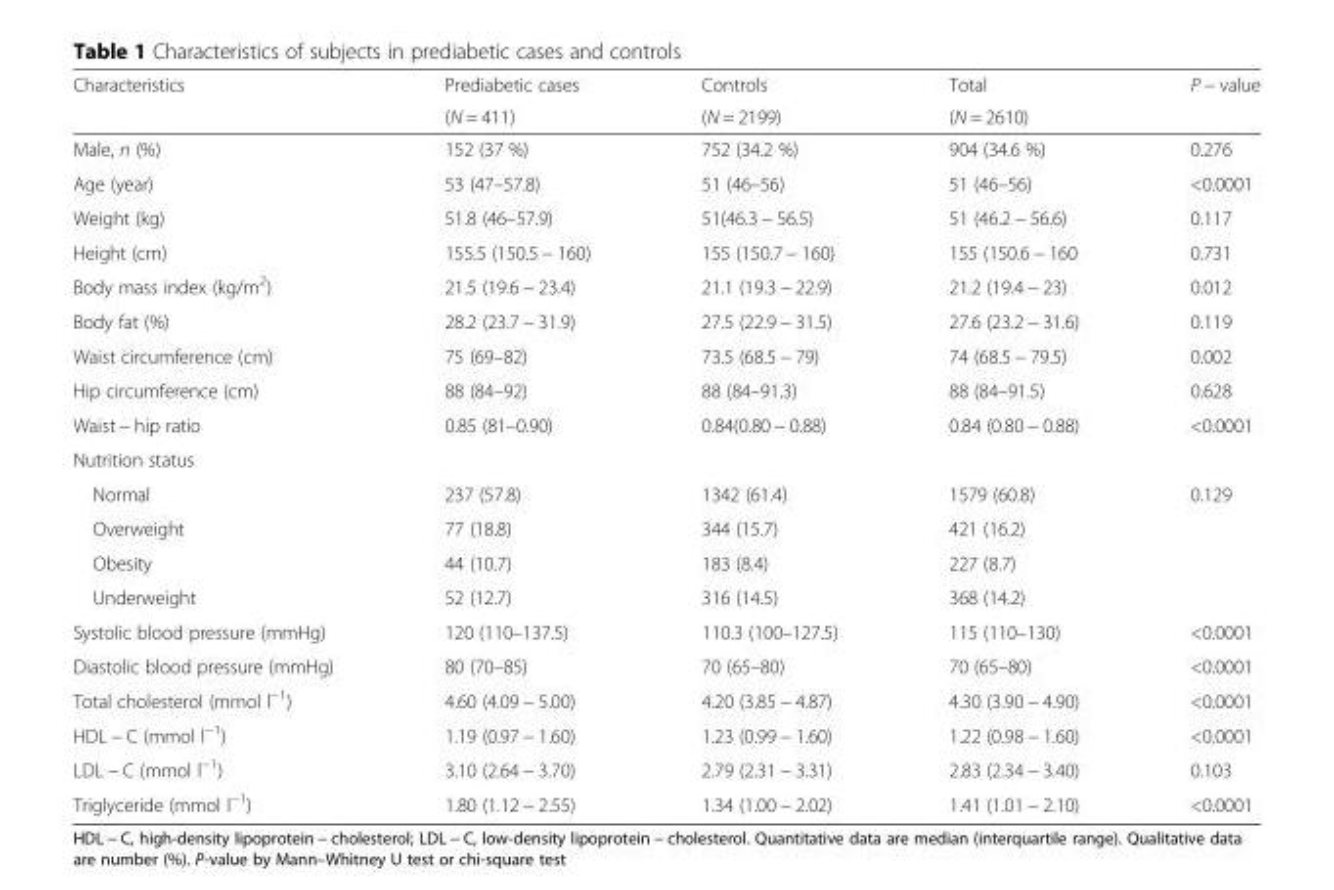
<table><thead><tr><td rowspan="2">Characteristics</td><td rowspan="2">Prediabetic cases (N = 411)</td><td rowspan="2">Controls (N = 2199)</td><td rowspan="2">Total (N = 2610)</td><td rowspan="2">P − value</td></tr><tr></tr></thead><tbody><tr><td>Male, n (%)</td><td>152 (37 %)</td><td>752 (34.2 %)</td><td>904 (34.6 %)</td><td>0.276</td></tr><tr><td>Age (year)</td><td>53 (47–57.8)</td><td>51 (46–56)</td><td>51 (46–56)</td><td>&lt;0.0001</td></tr><tr><td>Weight (kg)</td><td>51.8 (46–57.9)</td><td>51(46.3 − 56.5)</td><td>51 (46.2 − 56.6)</td><td>0.117</td></tr><tr><td>Height (cm)</td><td>155.5 (150.5 − 160)</td><td>155 (150.7 − 160)</td><td>155 (150.6 − 160</td><td>0.731</td></tr><tr><td>Body mass index (kg/m<sup>2</sup>)</td><td>21.5 (19.6 − 23.4)</td><td>21.1 (19.3 − 22.9)</td><td>21.2 (19.4 − 23)</td><td>0.012</td></tr><tr><td>Body fat (%)</td><td>28.2 (23.7 − 31.9)</td><td>27.5 (22.9 − 31.5)</td><td>27.6 (23.2 − 31.6)</td><td>0.119</td></tr><tr><td>Waist circumference (cm)</td><td>75 (69–82)</td><td>73.5 (68.5 − 79)</td><td>74 (68.5 − 79.5)</td><td>0.002</td></tr><tr><td>Hip circumference (cm)</td><td>88 (84–92)</td><td>88 (84–91.3)</td><td>88 (84–91.5)</td><td>0.628</td></tr><tr><td>Waist − hip ratio</td><td>0.85 (81–0.90)</td><td>0.84(0.80 − 0.88)</td><td>0.84 (0.80 − 0.88)</td><td>&lt;0.0001</td></tr><tr><td colspan="5">Nutrition status</td></tr><tr><td>Normal</td><td>237 (57.8)</td><td>1342 (61.4)</td><td>1579 (60.8)</td><td>0.129</td></tr><tr><td>Overweight</td><td>77 (18.8)</td><td>344 (15.7)</td><td>421 (16.2)</td><td></td></tr><tr><td>Obesity</td><td>44 (10.7)</td><td>183 (8.4)</td><td>227 (8.7)</td><td></td></tr><tr><td>Underweight</td><td>52 (12.7)</td><td>316 (14.5)</td><td>368 (14.2)</td><td></td></tr><tr><td>Systolic blood pressure (mmHg)</td><td>120 (110–137.5)</td><td>110.3 (100–127.5)</td><td>115 (110–130)</td><td>&lt;0.0001</td></tr><tr><td>Diastolic blood pressure (mmHg)</td><td>80 (70–85)</td><td>70 (65–80)</td><td>70 (65–80)</td><td>&lt;0.0001</td></tr><tr><td>Total cholesterol (mmol l<sup>−1</sup>)</td><td>4.60 (4.09 − 5.00)</td><td>4.20 (3.85 − 4.87)</td><td>4.30 (3.90 − 4.90)</td><td>&lt;0.0001</td></tr><tr><td>HDL − C (mmol l<sup>−1</sup>)</td><td>1.19 (0.97 − 1.60)</td><td>1.23 (0.99 − 1.60)</td><td>1.22 (0.98 − 1.60)</td><td>&lt;0.0001</td></tr><tr><td>LDL − C (mmol l<sup>−1</sup>)</td><td>3.10 (2.64 − 3.70)</td><td>2.79 (2.31 − 3.31)</td><td>2.83 (2.34 − 3.40)</td><td>0.103</td></tr><tr><td>Triglyceride (mmol l<sup>−1</sup>)</td><td>1.80 (1.12 − 2.55)</td><td>1.34 (1.00 − 2.02)</td><td>1.41 (1.01 − 2.10)</td><td>&lt;0.0001</td></tr></tbody></table>